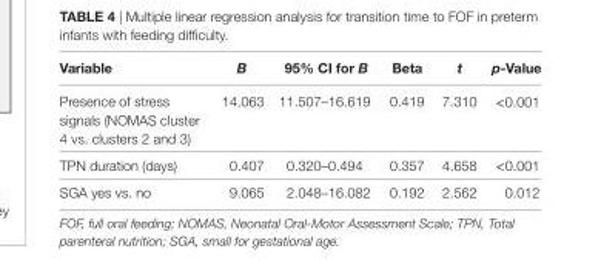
<table><thead><tr><td>Variable</td><td>B</td><td>95% ci for B</td><td>Beta</td><td>t</td><td>p-Value</td></tr></thead><tbody><tr><td>Presence of stress signals (NOMAS cluster 4 vs. clusters 2 and 3)</td><td>14.063</td><td>11.507–16.619</td><td>0.419</td><td>7.310</td><td>&lt;0.001</td></tr><tr><td>TPN duration (days)</td><td>0.407</td><td>0.320–0.494</td><td>0.357</td><td>4.658</td><td>&lt;0.001</td></tr><tr><td>SGA yes vs. no</td><td>9.065</td><td>2.048–16.082</td><td>0.192</td><td>2.562</td><td>0.012</td></tr></tbody></table>